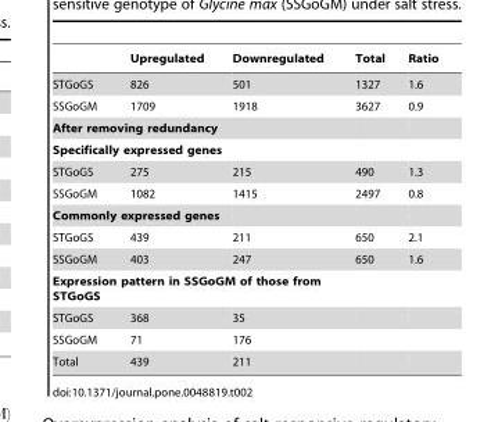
<table><thead><tr><td></td><td>Upregulated</td><td>Downregulated</td><td>Total</td><td>Ratio</td></tr></thead><tbody><tr><td>STGoGS</td><td>826</td><td>501</td><td>1327</td><td>1.6</td></tr><tr><td>SSGoGM</td><td>1709</td><td>1918</td><td>3627</td><td>0.9</td></tr><tr><td colspan="5">After removing redundancy</td></tr><tr><td colspan="5">Specifically expressed genes</td></tr><tr><td>STGoGS</td><td>275</td><td>215</td><td>490</td><td>1.3</td></tr><tr><td>SSGoGM</td><td>1082</td><td>1415</td><td>2497</td><td>0.8</td></tr><tr><td colspan="5">Commonly expressed genes</td></tr><tr><td>STGoGS</td><td>439</td><td>211</td><td>650</td><td>2.1</td></tr><tr><td>SSGoGM</td><td>403</td><td>247</td><td>650</td><td>1.6</td></tr><tr><td colspan="5">Expression pattern in SSGoGM of those from STGoGS</td></tr><tr><td>STGoGS</td><td>368</td><td>35</td><td></td><td></td></tr><tr><td>SSGoGM</td><td>71</td><td>176</td><td></td><td></td></tr><tr><td>Total</td><td>439</td><td>211</td><td></td><td></td></tr></tbody></table>